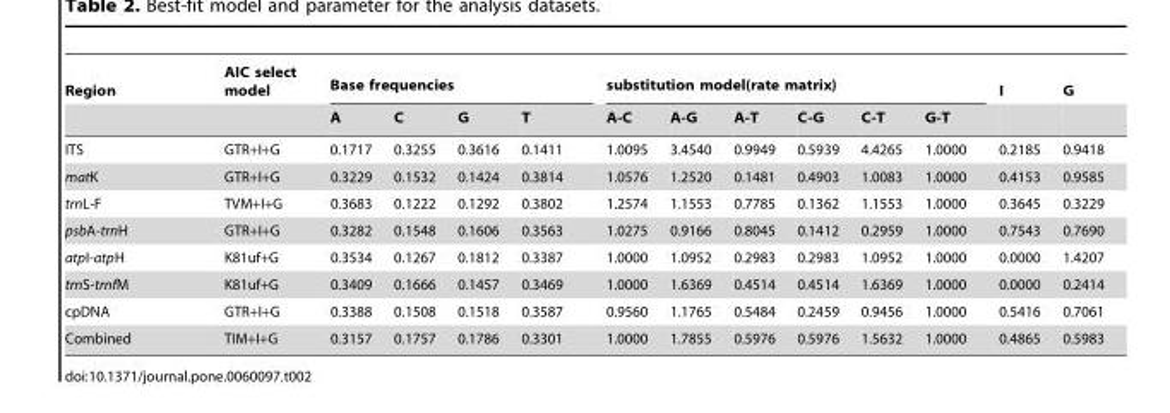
<table><thead><tr><td rowspan="2">Region</td><td rowspan="2">AIC select model</td><td colspan="4">Base frequencies</td><td colspan="6">substitution model(rate matrix)</td><td rowspan="2">I</td><td rowspan="2">G</td></tr><tr><td>A</td><td>C</td><td>G</td><td>T</td><td>A-C</td><td>A-G</td><td>A-T</td><td>C-G</td><td>C-T</td><td>G-T</td></tr></thead><tbody><tr><td>ITS</td><td>GTR+I+G</td><td>0.1717</td><td>0.3255</td><td>0.3616</td><td>0.1411</td><td>1.0095</td><td>3.4540</td><td>0.9949</td><td>0.5939</td><td>4.4265</td><td>1.0000</td><td>0.2185</td><td>0.9418</td></tr><tr><td>matK</td><td>GTR+I+G</td><td>0.3229</td><td>0.1532</td><td>0.1424</td><td>0.3814</td><td>1.0576</td><td>1.2520</td><td>0.1481</td><td>0.4903</td><td>1.0083</td><td>1.0000</td><td>0.4153</td><td>0.9585</td></tr><tr><td>trnL-F</td><td>TVM+I+G</td><td>0.3683</td><td>0.1222</td><td>0.1292</td><td>0.3802</td><td>1.2574</td><td>1.1553</td><td>0.7785</td><td>0.1362</td><td>1.1553</td><td>1.0000</td><td>0.3645</td><td>0.3229</td></tr><tr><td>psbA-trnH</td><td>GTR+I+G</td><td>0.3282</td><td>0.1548</td><td>0.1606</td><td>0.3563</td><td>1.0275</td><td>0.9166</td><td>0.8045</td><td>0.1412</td><td>0.2959</td><td>1.0000</td><td>0.7543</td><td>0.7690</td></tr><tr><td>atpI-atpH</td><td>K81uf+G</td><td>0.3534</td><td>0.1267</td><td>0.1812</td><td>0.3387</td><td>1.0000</td><td>1.0952</td><td>0.2983</td><td>0.2983</td><td>1.0952</td><td>1.0000</td><td>0.0000</td><td>1.4207</td></tr><tr><td>trnS-trnfM</td><td>K81uf+G</td><td>0.3409</td><td>0.1666</td><td>0.1457</td><td>0.3469</td><td>1.0000</td><td>1.6369</td><td>0.4514</td><td>0.4514</td><td>1.6369</td><td>1.0000</td><td>0.0000</td><td>0.2414</td></tr><tr><td>cpDNA</td><td>GTR+I+G</td><td>0.3388</td><td>0.1508</td><td>0.1518</td><td>0.3587</td><td>0.9560</td><td>1.1765</td><td>0.5484</td><td>0.2459</td><td>0.9456</td><td>1.0000</td><td>0.5416</td><td>0.7061</td></tr><tr><td>Combined</td><td>TIM+I+G</td><td>0.3157</td><td>0.1757</td><td>0.1786</td><td>0.3301</td><td>1.0000</td><td>1.7855</td><td>0.5976</td><td>0.5976</td><td>1.5632</td><td>1.0000</td><td>0.4865</td><td>0.5983</td></tr></tbody></table>